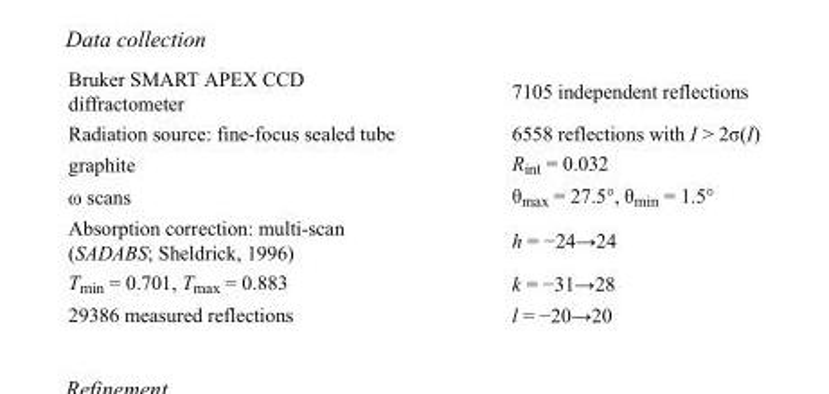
<table><tbody><tr><td>Bruker SMART APEX CCD diffractometer</td><td>7105 independent reflections</td></tr><tr><td>Radiation source: fine-focus sealed tube</td><td>6558 reflections with I &gt; 2σ(I)</td></tr><tr><td>graphite</td><td>R<sub>int</sub> = 0.032</td></tr><tr><td>ω scans</td><td>θ<sub>max</sub> = 27.5°, θ<sub>min</sub> = 1.5°</td></tr><tr><td>Absorption correction: multi-scan (SADABS; Sheldrick, 1996)</td><td>h = −24→24</td></tr><tr><td>T<sub>min</sub> = 0.701, T<sub>max</sub> = 0.883</td><td>k = −31→28</td></tr><tr><td>29386 measured reflections</td><td>l = −20→20</td></tr></tbody></table>